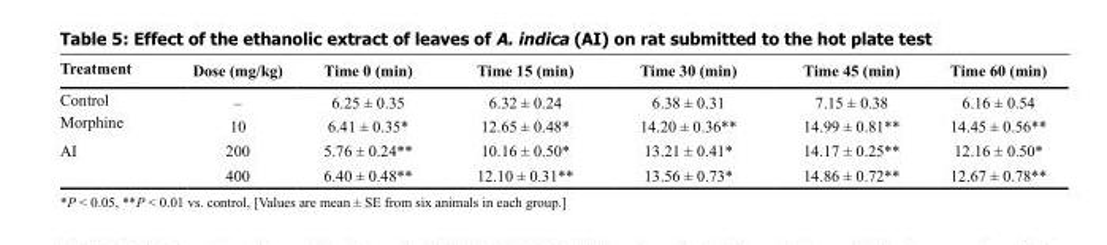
<table><thead><tr><td>Treatment</td><td>Dose (mg/kg)</td><td>Time 0 (min)</td><td>Time 15 (min)</td><td>Time 30 (min)</td><td>Time 45 (min)</td><td>Time 60 (min)</td></tr></thead><tbody><tr><td>Control</td><td>–</td><td>6.25 ± 0.35</td><td>6.32 ± 0.24</td><td>6.38 ± 0.31</td><td>7.15 ± 0.38</td><td>6.16 ± 0.54</td></tr><tr><td>Morphine</td><td>10</td><td>6.41 ± 0.35*</td><td>12.65 ± 0.48*</td><td>14.20 ± 0.36**</td><td>14.99 ± 0.81**</td><td>14.45 ± 0.56**</td></tr><tr><td rowspan="2">AI</td><td>200</td><td>5.76 ± 0.24**</td><td>10.16 ± 0.50*</td><td>13.21 ± 0.41*</td><td>14.17 ± 0.25**</td><td>12.16 ± 0.50*</td></tr><tr><td>400</td><td>6.40 ± 0.48**</td><td>12.10 ± 0.31**</td><td>13.56 ± 0.73*</td><td>14.86 ± 0.72**</td><td>12.67 ± 0.78**</td></tr></tbody></table>